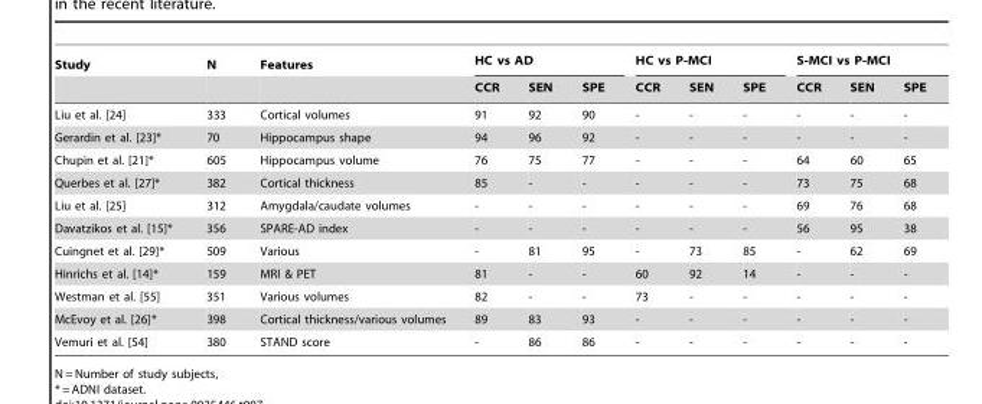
<table><thead><tr><td rowspan="2">Study</td><td rowspan="2">N</td><td rowspan="2">Features</td><td colspan="3">HC vs AD</td><td colspan="3">HC vs P-MCI</td><td colspan="3">S-MCI vs P-MCI</td></tr><tr><td>CCR</td><td>SEN</td><td>SPE</td><td>CCR</td><td>SEN</td><td>SPE</td><td>CCR</td><td>SEN</td><td>SPE</td></tr></thead><tbody><tr><td>Liu et al. [24]</td><td>333</td><td>Cortical volumes</td><td>91</td><td>92</td><td>90</td><td>-</td><td>-</td><td>-</td><td>-</td><td>-</td><td>-</td></tr><tr><td>Gerardin et al. [23]*</td><td>70</td><td>Hippocampus shape</td><td>94</td><td>96</td><td>92</td><td>-</td><td>-</td><td>-</td><td>-</td><td>-</td><td>-</td></tr><tr><td>Chupin et al. [21]*</td><td>605</td><td>Hippocampus volume</td><td>76</td><td>75</td><td>77</td><td>-</td><td>-</td><td>-</td><td>64</td><td>60</td><td>65</td></tr><tr><td>Querbes et al. [27]*</td><td>382</td><td>Cortical thickness</td><td>85</td><td>-</td><td>-</td><td>-</td><td>-</td><td>-</td><td>73</td><td>75</td><td>68</td></tr><tr><td>Liu et al. [25]</td><td>312</td><td>Amygdala/caudate volumes</td><td>-</td><td>-</td><td>-</td><td>-</td><td>-</td><td>-</td><td>69</td><td>76</td><td>68</td></tr><tr><td>Davatzikos et al. [15]*</td><td>356</td><td>SPARE-AD index</td><td>-</td><td>-</td><td>-</td><td>-</td><td>-</td><td>-</td><td>56</td><td>95</td><td>38</td></tr><tr><td>Cuingnet et al. [29]*</td><td>509</td><td>Various</td><td>-</td><td>81</td><td>95</td><td>-</td><td>73</td><td>85</td><td>-</td><td>62</td><td>69</td></tr><tr><td>Hinrichs et al. [14]*</td><td>159</td><td>MRI &amp; PET</td><td>81</td><td>-</td><td>-</td><td>60</td><td>92</td><td>14</td><td>-</td><td>-</td><td>-</td></tr><tr><td>Westman et al. [55]</td><td>351</td><td>Various volumes</td><td>82</td><td>-</td><td>-</td><td>73</td><td>-</td><td>-</td><td>-</td><td>-</td><td>-</td></tr><tr><td>McEvoy et al. [26]*</td><td>398</td><td>Cortical thickness/various volumes</td><td>89</td><td>83</td><td>93</td><td>-</td><td>-</td><td>-</td><td>-</td><td>-</td><td>-</td></tr><tr><td>Vemuri et al. [54]</td><td>380</td><td>STAND score</td><td>-</td><td>86</td><td>86</td><td>-</td><td>-</td><td>-</td><td>-</td><td>-</td><td>-</td></tr></tbody></table>